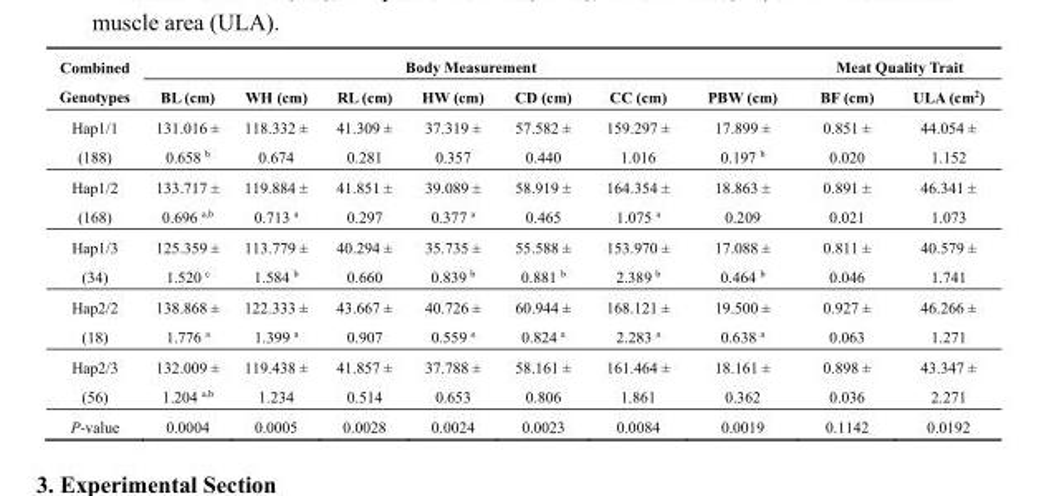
<table><thead><tr><td rowspan="2">Combined Genotypes</td><td colspan="7">Body Measurement</td><td colspan="2">Meat Quality Trait</td></tr><tr><td>BL (cm)</td><td>WH (cm)</td><td>RL (cm)</td><td>HW (cm)</td><td>CD (cm)</td><td>CC (cm)</td><td>PBW (cm)</td><td>BF (cm)</td><td>ULA (cm<sup>2</sup>)</td></tr></thead><tbody><tr><td>Hap1/1 (188)</td><td>131.016 ± 0.658 <sup>b</sup></td><td>118.332 ± 0.674</td><td>41.309 ± 0.281</td><td>37.319 ± 0.357</td><td>57.582 ± 0.440</td><td>159.297 ± 1.016</td><td>17.899 ± 0.197 <sup>b</sup></td><td>0.851 ± 0.020</td><td>44.054 ± 1.152</td></tr><tr><td>Hap1/2 (168)</td><td>133.717 ± 0.696 <sup>a,b</sup></td><td>119.884 ± 0.713 <sup>a</sup></td><td>41.851 ± 0.297</td><td>39.089 ± 0.377 <sup>a</sup></td><td>58.919 ± 0.465</td><td>164.354 ± 1.075 <sup>a</sup></td><td>18.863 ± 0.209</td><td>0.891 ± 0.021</td><td>46.341 ± 1.073</td></tr><tr><td>Hap1/3 (34)</td><td>125.359 ± 1.520 <sup>c</sup></td><td>113.779 ± 1.584 <sup>b</sup></td><td>40.294 ± 0.660</td><td>35.735 ± 0.839 <sup>b</sup></td><td>55.588 ± 0.881 <sup>b</sup></td><td>153.970 ± 2.389 <sup>b</sup></td><td>17.088 ± 0.464 <sup>b</sup></td><td>0.811 ± 0.046</td><td>40.579 ± 1.741</td></tr><tr><td>Hap2/2 (18)</td><td>138.868 ± 1.776 <sup>a</sup></td><td>122.333 ± 1.399 <sup>a</sup></td><td>43.667 ± 0.907</td><td>40.726 ± 0.559 <sup>a</sup></td><td>60.944 ± 0.824 <sup>a</sup></td><td>168.121 ± 2.283 <sup>a</sup></td><td>19.500 ± 0.638 <sup>a</sup></td><td>0.927 ± 0.063</td><td>46.266 ± 1.271</td></tr><tr><td>Hap2/3 (56)</td><td>132.009 ± 1.204 <sup>a,b</sup></td><td>119.438 ± 1.234</td><td>41.857 ± 0.514</td><td>37.788 ± 0.653</td><td>58.161 ± 0.806</td><td>161.464 ± 1.861</td><td>18.161 ± 0.362</td><td>0.898 ± 0.036</td><td>43.347 ± 2.271</td></tr><tr><td>P-value</td><td>0.0004</td><td>0.0005</td><td>0.0028</td><td>0.0024</td><td>0.0023</td><td>0.0084</td><td>0.0019</td><td>0.1142</td><td>0.0192</td></tr></tbody></table>